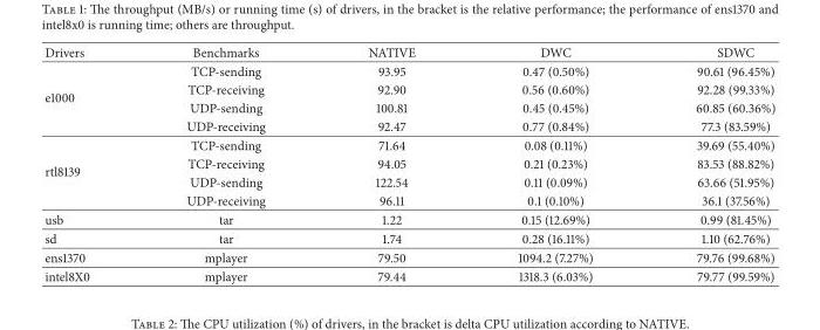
<table><thead><tr><td>Drivers</td><td>Benchmarks</td><td>NATIVE</td><td>DWC</td><td>SDWC</td></tr></thead><tbody><tr><td rowspan="4">e1000</td><td>TCP-sending</td><td>93.95</td><td>0.47 (0.50%)</td><td>90.61 (96.45%)</td></tr><tr><td>TCP-receiving</td><td>92.90</td><td>0.56 (0.60%)</td><td>92.28 (99.33%)</td></tr><tr><td>UDP-sending</td><td>100.81</td><td>0.45 (0.45%)</td><td>60.85 (60.36%)</td></tr><tr><td>UDP-receiving</td><td>92.47</td><td>0.77 (0.84%)</td><td>77.3 (83.59%)</td></tr><tr><td rowspan="4">rtl8139</td><td>TCP-sending</td><td>71.64</td><td>0.08 (0.11%)</td><td>39.69 (55.40%)</td></tr><tr><td>TCP-receiving</td><td>94.05</td><td>0.21 (0.23%)</td><td>83.53 (88.82%)</td></tr><tr><td>UDP-sending</td><td>122.54</td><td>0.11 (0.09%)</td><td>63.66 (51.95%)</td></tr><tr><td>UDP-receiving</td><td>96.11</td><td>0.1 (0.10%)</td><td>36.1 (37.56%)</td></tr><tr><td>usb</td><td>tar</td><td>1.22</td><td>0.15 (12.69%)</td><td>0.99 (81.45%)</td></tr><tr><td>sd</td><td>tar</td><td>1.74</td><td>0.28 (16.11%)</td><td>1.10 (62.76%)</td></tr><tr><td>ens1370</td><td>mplayer</td><td>79.50</td><td>1094.2 (7.27%)</td><td>79.76 (99.68%)</td></tr><tr><td>intel8X0</td><td>mplayer</td><td>79.44</td><td>1318.3 (6.03%)</td><td>79.77 (99.59%)</td></tr></tbody></table>